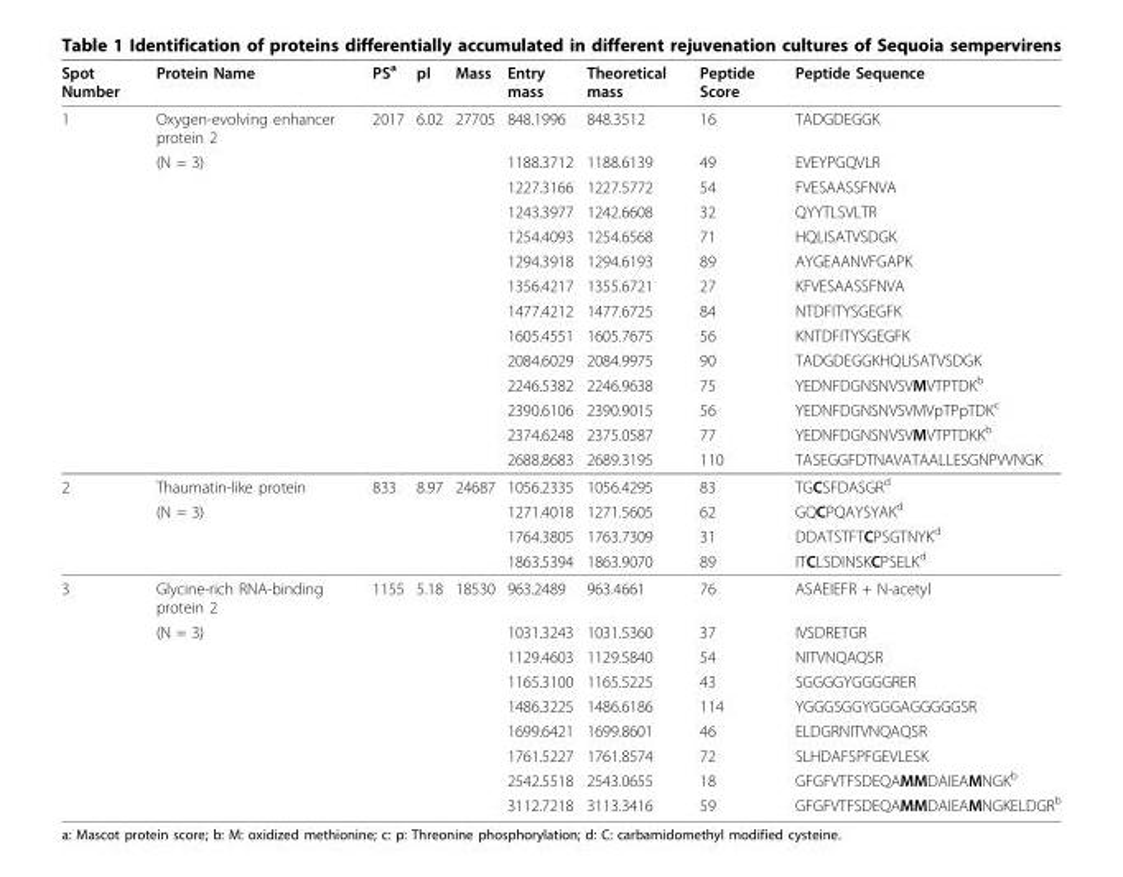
<table><thead><tr><td>Spot Number</td><td>Protein Name</td><td>PS<sup>a</sup></td><td>pI</td><td>Mass</td><td>Entry mass</td><td>Theoretical mass</td><td>Peptide Score</td><td>Peptide Sequence</td></tr></thead><tbody><tr><td rowspan="14">1</td><td>Oxygen-evolving enhancer protein 2</td><td>2017</td><td>6.02</td><td>27705</td><td>848.1996</td><td>848.3512</td><td>16</td><td>TADGDEGGK</td></tr><tr><td>(N = 3)</td><td></td><td></td><td></td><td>1188.3712</td><td>1188.6139</td><td>49</td><td>EVEYPGQVLR</td></tr><tr><td></td><td></td><td></td><td></td><td>1227.3166</td><td>1227.5772</td><td>54</td><td>FVESAASSFNVA</td></tr><tr><td></td><td></td><td></td><td></td><td>1243.3977</td><td>1242.6608</td><td>32</td><td>QYYTLSVLTR</td></tr><tr><td></td><td></td><td></td><td></td><td>1254.4093</td><td>1254.6568</td><td>71</td><td>HQLISATVSDGK</td></tr><tr><td></td><td></td><td></td><td></td><td>1294.3918</td><td>1294.6193</td><td>89</td><td>AYGEAANVFGAPK</td></tr><tr><td></td><td></td><td></td><td></td><td>1356.4217</td><td>1355.6721</td><td>27</td><td>KFVESAASSFNVA</td></tr><tr><td></td><td></td><td></td><td></td><td>1477.4212</td><td>1477.6725</td><td>84</td><td>NTDFITYSGEGFK</td></tr><tr><td></td><td></td><td></td><td></td><td>1605.4551</td><td>1605.7675</td><td>56</td><td>KNTDFITYSGEGFK</td></tr><tr><td></td><td></td><td></td><td></td><td>2084.6029</td><td>2084.9975</td><td>90</td><td>TADGDEGGKHQLISATVSDGK</td></tr><tr><td></td><td></td><td></td><td></td><td>2246.5382</td><td>2246.9638</td><td>75</td><td>YEDNFDGNSNVSVMVTPTDK<sup>b</sup></td></tr><tr><td></td><td></td><td></td><td></td><td>2390.6106</td><td>2390.9015</td><td>56</td><td>YEDNFDGNSNVSVMVpTPpTDK<sup>c</sup></td></tr><tr><td></td><td></td><td></td><td></td><td>2374.6248</td><td>2375.0587</td><td>77</td><td>YEDNFDGNSNVSVMVTPTDKK<sup>b</sup></td></tr><tr><td></td><td></td><td></td><td></td><td>2688.8683</td><td>2689.3195</td><td>110</td><td>TASEGGFDTNAVATAALLESGNPVVNGK</td></tr><tr><td rowspan="4">2</td><td>Thaumatin-like protein</td><td>833</td><td>8.97</td><td>24687</td><td>1056.2335</td><td>1056.4295</td><td>83</td><td>TGCSFDASGR<sup>d</sup></td></tr><tr><td>(N = 3)</td><td></td><td></td><td></td><td>1271.4018</td><td>1271.5605</td><td>62</td><td>GQCPQAYSYAK<sup>d</sup></td></tr><tr><td></td><td></td><td></td><td></td><td>1764.3805</td><td>1763.7309</td><td>31</td><td>DDATSTFTCPSGTNYK<sup>d</sup></td></tr><tr><td></td><td></td><td></td><td></td><td>1863.5394</td><td>1863.9070</td><td>89</td><td>ITCLSDINSKCPSELK<sup>d</sup></td></tr><tr><td rowspan="9">3</td><td>Glycine-rich RNA-binding protein 2</td><td>1155</td><td>5.18</td><td>18530</td><td>963.2489</td><td>963.4661</td><td>76</td><td>ASAEIEFR + N-acetyl</td></tr><tr><td>(N = 3)</td><td></td><td></td><td></td><td>1031.3243</td><td>1031.5360</td><td>37</td><td>IVSDRETGR</td></tr><tr><td></td><td></td><td></td><td></td><td>1129.4603</td><td>1129.5840</td><td>54</td><td>NITVNQAQSR</td></tr><tr><td></td><td></td><td></td><td></td><td>1165.3100</td><td>1165.5225</td><td>43</td><td>SGGGGYGGGGRER</td></tr><tr><td></td><td></td><td></td><td></td><td>1486.3225</td><td>1486.6186</td><td>114</td><td>YGGGSGGYGGGAGGGGGSR</td></tr><tr><td></td><td></td><td></td><td></td><td>1699.6421</td><td>1699.8601</td><td>46</td><td>ELDGRNITVNQAQSR</td></tr><tr><td></td><td></td><td></td><td></td><td>1761.5227</td><td>1761.8574</td><td>72</td><td>SLHDAFSPFGEVLESK</td></tr><tr><td></td><td></td><td></td><td></td><td>2542.5518</td><td>2543.0655</td><td>18</td><td>GFGFVTFSDEQAMMDAIEAMNGK<sup>b</sup></td></tr><tr><td></td><td></td><td></td><td></td><td>3112.7218</td><td>3113.3416</td><td>59</td><td>GFGFVTFSDEQAMMDAIEAMNGKELDGR<sup>b</sup></td></tr></tbody></table>